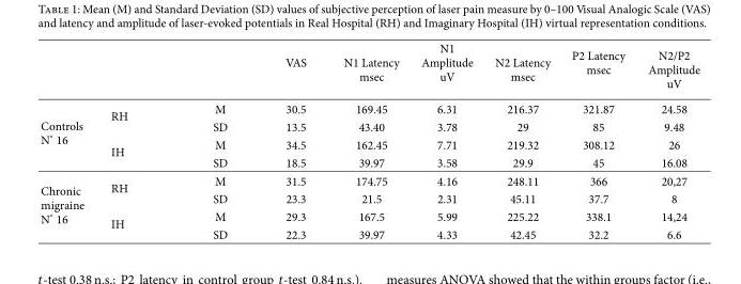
<table><thead><tr><td></td><td></td><td></td><td>VAS</td><td>N1 Latency msec</td><td>N1 Amplitude uV</td><td>N2 Latency msec</td><td>P2 Latency msec</td><td>N2/P2 Amplitude uV</td></tr></thead><tbody><tr><td rowspan="4">Controls N∘ 16</td><td rowspan="2">RH</td><td>M</td><td>30.5</td><td>169.45</td><td>6.31</td><td>216.37</td><td>321.87</td><td>24.58</td></tr><tr><td>SD</td><td>13.5</td><td>43.40</td><td>3.78</td><td>29</td><td>85</td><td>9.48</td></tr><tr><td rowspan="2">IH</td><td>M</td><td>34.5</td><td>162.45</td><td>7.71</td><td>219.32</td><td>308.12</td><td>26</td></tr><tr><td>SD</td><td>18.5</td><td>39.97</td><td>3.58</td><td>29.9</td><td>45</td><td>16.08</td></tr><tr><td rowspan="4">Chronic migraine N∘ 16</td><td rowspan="2">RH</td><td>M</td><td>31.5</td><td>174.75</td><td>4.16</td><td>248.11</td><td>366</td><td>20,27</td></tr><tr><td>SD</td><td>23.3</td><td>21.5</td><td>2.31</td><td>45.11</td><td>37.7</td><td>8</td></tr><tr><td rowspan="2">IH</td><td>M</td><td>29.3</td><td>167.5</td><td>5.99</td><td>225.22</td><td>338.1</td><td>14,24</td></tr><tr><td>SD</td><td>22.3</td><td>39.97</td><td>4.33</td><td>42.45</td><td>32.2</td><td>6.6</td></tr></tbody></table>